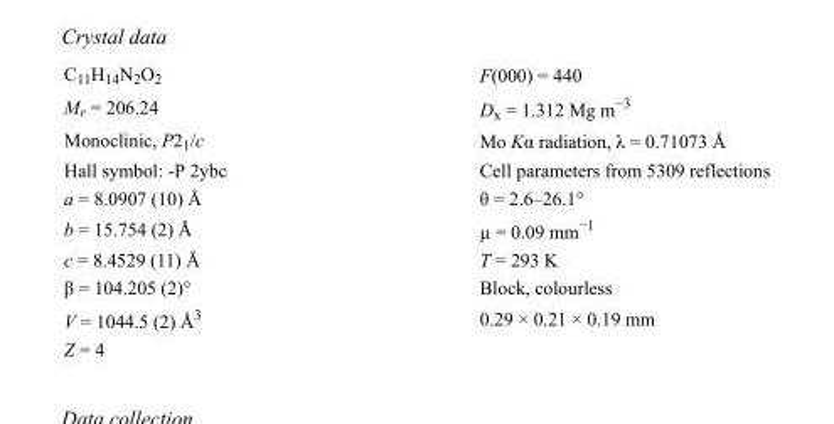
<table><tbody><tr><td>C<sub>11</sub>H<sub>14</sub>N<sub>2</sub>O<sub>2</sub></td><td>F(000) = 440</td></tr><tr><td>M<sub>r</sub> = 206.24</td><td>D<sub>x</sub> = 1.312 Mg m<sup>−3</sup></td></tr><tr><td>Monoclinic, P2<sub>1</sub>/c</td><td>Mo Kα radiation, λ = 0.71073 Å</td></tr><tr><td>Hall symbol: -P 2ybc</td><td>Cell parameters from 5309 reflections</td></tr><tr><td>a = 8.0907 (10) Å</td><td>θ = 2.6–26.1°</td></tr><tr><td>b = 15.754 (2) Å</td><td>µ = 0.09 mm<sup>−1</sup></td></tr><tr><td>c = 8.4529 (11) Å</td><td>T = 293 K</td></tr><tr><td>β = 104.205 (2)°</td><td>Block, colourless</td></tr><tr><td>V = 1044.5 (2) Å<sup>3</sup></td><td>0.29 × 0.21 × 0.19 mm</td></tr><tr><td>Z = 4</td><td></td></tr></tbody></table>